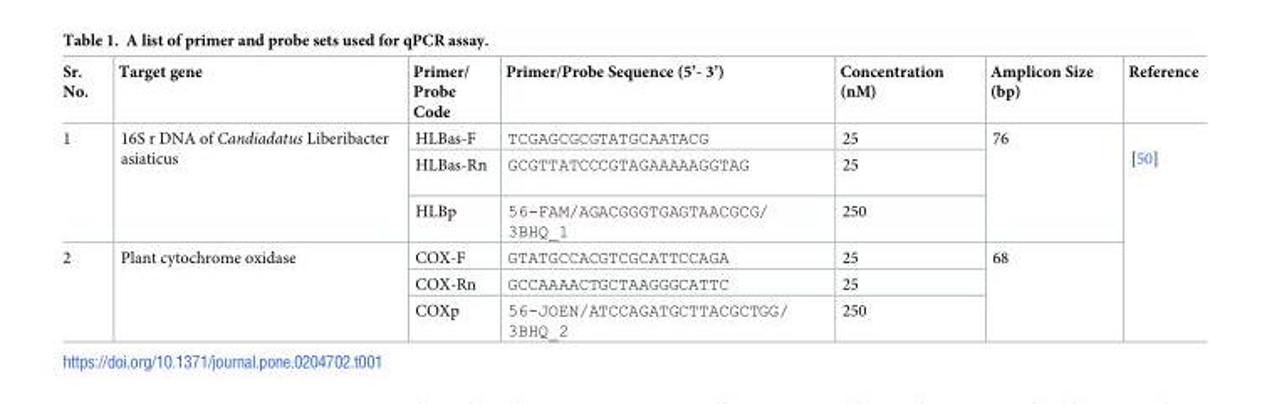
<table><thead><tr><td>Sr. No.</td><td>Target gene</td><td>Primer/ Probe Code</td><td>Primer/Probe Sequence (5’- 3’)</td><td>Concentration (nM)</td><td>Amplicon Size (bp)</td><td>Reference</td></tr></thead><tbody><tr><td rowspan="3">1</td><td rowspan="3">16S r DNA of Candiadatus Liberibacter asiaticus</td><td>HLBas-F</td><td>TCGAGCGCGTATGCAATACG</td><td>25</td><td rowspan="3">76</td><td rowspan="6">[50]</td></tr><tr><td>HLBas-Rn</td><td>GCGTTATCCCGTAGAAAAAGGTAG</td><td>25</td></tr><tr><td>HLBp</td><td>56-FAM/AGACGGGTGAGTAACGCG/ 3BHQ_1</td><td>250</td></tr><tr><td rowspan="3">2</td><td rowspan="3">Plant cytochrome oxidase</td><td>COX-F</td><td>GTATGCCACGTCGCATTCCAGA</td><td>25</td><td rowspan="3">68</td></tr><tr><td>COX-Rn</td><td>GCCAAAACTGCTAAGGGCATTC</td><td>25</td></tr><tr><td>COXp</td><td>56-JOEN/ATCCAGATGCTTACGCTGG/ 3BHQ_2</td><td>250</td></tr></tbody></table>